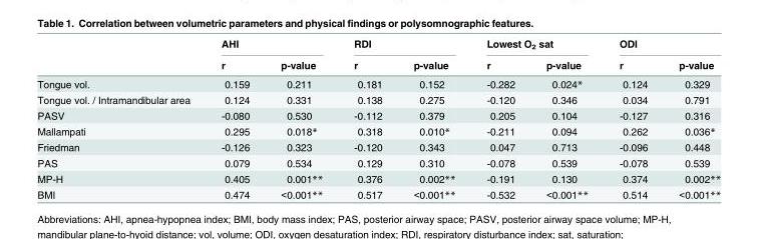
<table><thead><tr><td rowspan="2"></td><td colspan="2">AHI</td><td colspan="2">RDI</td><td colspan="2">Lowest O<sub>2</sub> sat</td><td colspan="2">ODI</td></tr><tr><td>r</td><td>p-value</td><td>r</td><td>p-value</td><td>r</td><td>p-value</td><td>r</td><td>p-value</td></tr></thead><tbody><tr><td>Tongue vol.</td><td>0.159</td><td>0.211</td><td>0.181</td><td>0.152</td><td>-0.282</td><td>0.024*</td><td>0.124</td><td>0.329</td></tr><tr><td>Tongue vol. / Intramandibular area</td><td>0.124</td><td>0.331</td><td>0.138</td><td>0.275</td><td>-0.120</td><td>0.346</td><td>0.034</td><td>0.791</td></tr><tr><td>PASV</td><td>-0.080</td><td>0.530</td><td>-0.112</td><td>0.379</td><td>0.205</td><td>0.104</td><td>-0.127</td><td>0.316</td></tr><tr><td>Mallampati</td><td>0.295</td><td>0.018*</td><td>0.318</td><td>0.010*</td><td>-0.211</td><td>0.094</td><td>0.262</td><td>0.036*</td></tr><tr><td>Friedman</td><td>-0.126</td><td>0.323</td><td>-0.120</td><td>0.343</td><td>0.047</td><td>0.713</td><td>-0.096</td><td>0.448</td></tr><tr><td>PAS</td><td>0.079</td><td>0.534</td><td>0.129</td><td>0.310</td><td>-0.078</td><td>0.539</td><td>-0.078</td><td>0.539</td></tr><tr><td>MP-H</td><td>0.405</td><td>0.001**</td><td>0.376</td><td>0.002**</td><td>-0.191</td><td>0.130</td><td>0.374</td><td>0.002**</td></tr><tr><td>BMI</td><td>0.474</td><td>&lt;0.001**</td><td>0.517</td><td>&lt;0.001**</td><td>-0.532</td><td>&lt;0.001**</td><td>0.514</td><td>&lt;0.001**</td></tr></tbody></table>